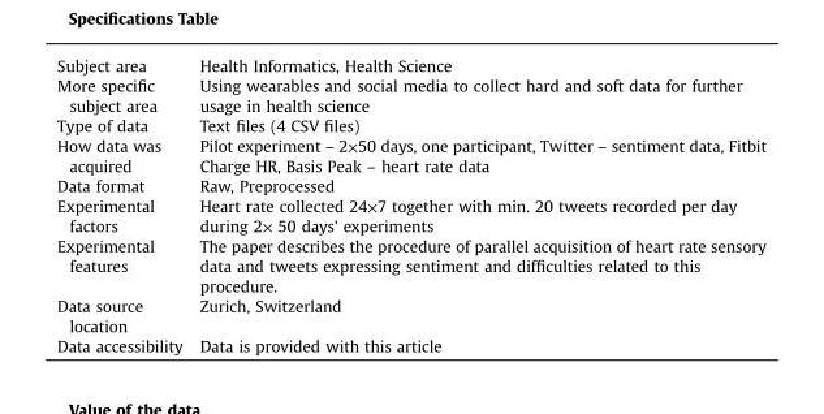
<table><tbody><tr><td>Subject area</td><td>Health Informatics, Health Science</td></tr><tr><td>More specific subject area</td><td>Using wearables and social media to collect hard and soft data for further usage in health science</td></tr><tr><td>Type of data</td><td>Text files (4 CSV files)</td></tr><tr><td>How data was acquired</td><td>Pilot experiment – 2×50 days, one participant, Twitter – sentiment data, Fitbit Charge HR, Basis Peak – heart rate data</td></tr><tr><td>Data format</td><td>Raw, Preprocessed</td></tr><tr><td>Experimental factors</td><td>Heart rate collected 24×7 together with min. 20 tweets recorded per day during 2× 50 days&#x27; experiments</td></tr><tr><td>Experimental features</td><td>The paper describes the procedure of parallel acquisition of heart rate sensory data and tweets expressing sentiment and difficulties related to this procedure.</td></tr><tr><td>Data source location</td><td>Zurich, Switzerland</td></tr><tr><td>Data accessibility</td><td>Data is provided with this article</td></tr></tbody></table>